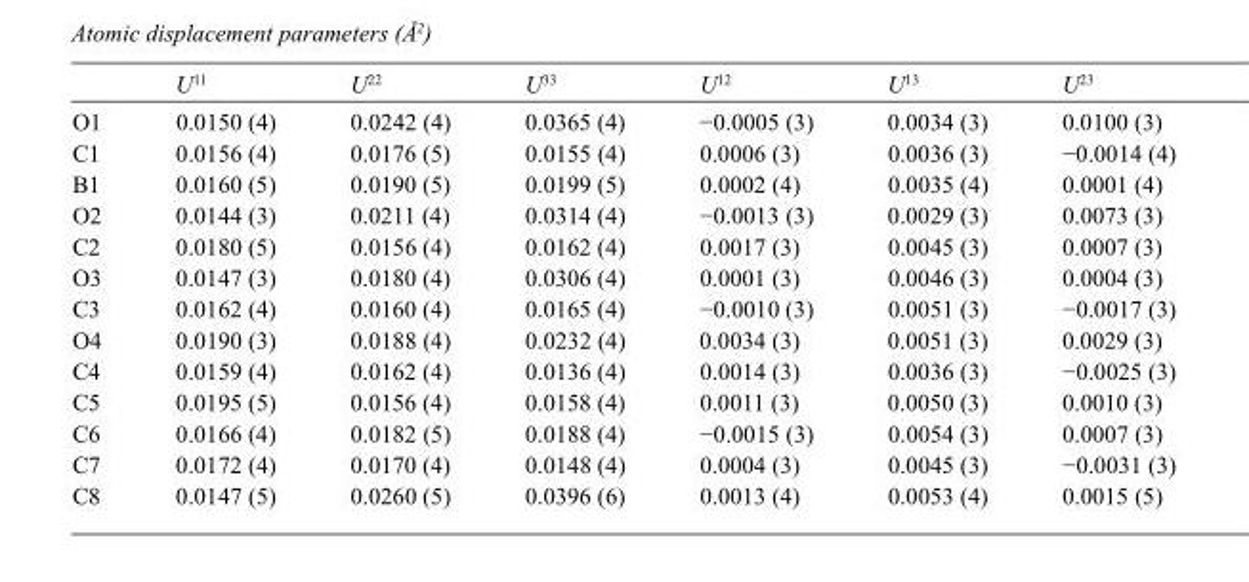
<table><thead><tr><td></td><td>U<sup>11</sup></td><td>U<sup>22</sup></td><td>U<sup>33</sup></td><td>U<sup>12</sup></td><td>U<sup>13</sup></td><td>U<sup>23</sup></td></tr></thead><tbody><tr><td>O1</td><td>0.0150 (4)</td><td>0.0242 (4)</td><td>0.0365 (4)</td><td>−0.0005 (3)</td><td>0.0034 (3)</td><td>0.0100 (3)</td></tr><tr><td>C1</td><td>0.0156 (4)</td><td>0.0176 (5)</td><td>0.0155 (4)</td><td>0.0006 (3)</td><td>0.0036 (3)</td><td>−0.0014 (4)</td></tr><tr><td>B1</td><td>0.0160 (5)</td><td>0.0190 (5)</td><td>0.0199 (5)</td><td>0.0002 (4)</td><td>0.0035 (4)</td><td>0.0001 (4)</td></tr><tr><td>O2</td><td>0.0144 (3)</td><td>0.0211 (4)</td><td>0.0314 (4)</td><td>−0.0013 (3)</td><td>0.0029 (3)</td><td>0.0073 (3)</td></tr><tr><td>C2</td><td>0.0180 (5)</td><td>0.0156 (4)</td><td>0.0162 (4)</td><td>0.0017 (3)</td><td>0.0045 (3)</td><td>0.0007 (3)</td></tr><tr><td>O3</td><td>0.0147 (3)</td><td>0.0180 (4)</td><td>0.0306 (4)</td><td>0.0001 (3)</td><td>0.0046 (3)</td><td>0.0004 (3)</td></tr><tr><td>C3</td><td>0.0162 (4)</td><td>0.0160 (4)</td><td>0.0165 (4)</td><td>−0.0010 (3)</td><td>0.0051 (3)</td><td>−0.0017 (3)</td></tr><tr><td>O4</td><td>0.0190 (3)</td><td>0.0188 (4)</td><td>0.0232 (4)</td><td>0.0034 (3)</td><td>0.0051 (3)</td><td>0.0029 (3)</td></tr><tr><td>C4</td><td>0.0159 (4)</td><td>0.0162 (4)</td><td>0.0136 (4)</td><td>0.0014 (3)</td><td>0.0036 (3)</td><td>−0.0025 (3)</td></tr><tr><td>C5</td><td>0.0195 (5)</td><td>0.0156 (4)</td><td>0.0158 (4)</td><td>0.0011 (3)</td><td>0.0050 (3)</td><td>0.0010 (3)</td></tr><tr><td>C6</td><td>0.0166 (4)</td><td>0.0182 (5)</td><td>0.0188 (4)</td><td>−0.0015 (3)</td><td>0.0054 (3)</td><td>0.0007 (3)</td></tr><tr><td>C7</td><td>0.0172 (4)</td><td>0.0170 (4)</td><td>0.0148 (4)</td><td>0.0004 (3)</td><td>0.0045 (3)</td><td>−0.0031 (3)</td></tr><tr><td>C8</td><td>0.0147 (5)</td><td>0.0260 (5)</td><td>0.0396 (6)</td><td>0.0013 (4)</td><td>0.0053 (4)</td><td>0.0015 (5)</td></tr></tbody></table>